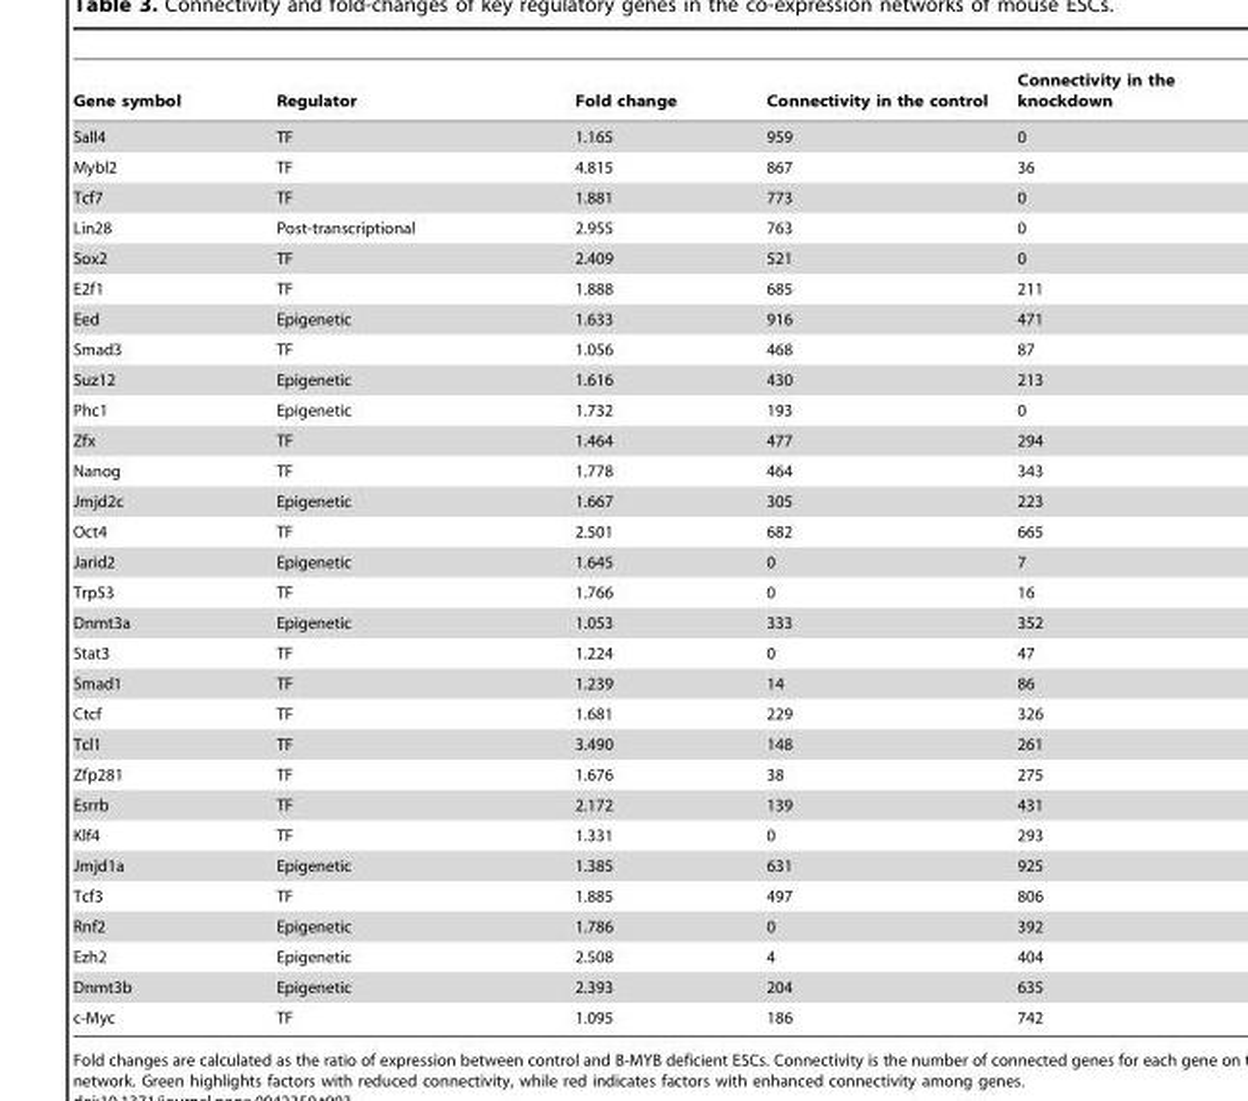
<table><thead><tr><td>Gene symbol</td><td>Regulator</td><td>Fold change</td><td>Connectivity in the control</td><td>Connectivity in the knockdown</td></tr></thead><tbody><tr><td>Sall4</td><td>TF</td><td>1.165</td><td>959</td><td>0</td></tr><tr><td>Mybl2</td><td>TF</td><td>4.815</td><td>867</td><td>36</td></tr><tr><td>Tcf7</td><td>TF</td><td>1.881</td><td>773</td><td>0</td></tr><tr><td>Lin28</td><td>Post-transcriptional</td><td>2.955</td><td>763</td><td>0</td></tr><tr><td>Sox2</td><td>TF</td><td>2.409</td><td>521</td><td>0</td></tr><tr><td>E2f1</td><td>TF</td><td>1.888</td><td>685</td><td>211</td></tr><tr><td>Eed</td><td>Epigenetic</td><td>1.633</td><td>916</td><td>471</td></tr><tr><td>Smad3</td><td>TF</td><td>1.056</td><td>468</td><td>87</td></tr><tr><td>Suz12</td><td>Epigenetic</td><td>1.616</td><td>430</td><td>213</td></tr><tr><td>Phc1</td><td>Epigenetic</td><td>1.732</td><td>193</td><td>0</td></tr><tr><td>Zfx</td><td>TF</td><td>1.464</td><td>477</td><td>294</td></tr><tr><td>Nanog</td><td>TF</td><td>1.778</td><td>464</td><td>343</td></tr><tr><td>Jmjd2c</td><td>Epigenetic</td><td>1.667</td><td>305</td><td>223</td></tr><tr><td>Oct4</td><td>TF</td><td>2.501</td><td>682</td><td>665</td></tr><tr><td>Jarid2</td><td>Epigenetic</td><td>1.645</td><td>0</td><td>7</td></tr><tr><td>Trp53</td><td>TF</td><td>1.766</td><td>0</td><td>16</td></tr><tr><td>Dnmt3a</td><td>Epigenetic</td><td>1.053</td><td>333</td><td>352</td></tr><tr><td>Stat3</td><td>TF</td><td>1.224</td><td>0</td><td>47</td></tr><tr><td>Smad1</td><td>TF</td><td>1.239</td><td>14</td><td>86</td></tr><tr><td>Ctcf</td><td>TF</td><td>1.681</td><td>229</td><td>326</td></tr><tr><td>Tcl1</td><td>TF</td><td>3.490</td><td>148</td><td>261</td></tr><tr><td>Zfp281</td><td>TF</td><td>1.676</td><td>38</td><td>275</td></tr><tr><td>Esrrb</td><td>TF</td><td>2.172</td><td>139</td><td>431</td></tr><tr><td>Klf4</td><td>TF</td><td>1.331</td><td>0</td><td>293</td></tr><tr><td>Jmjd1a</td><td>Epigenetic</td><td>1.385</td><td>631</td><td>925</td></tr><tr><td>Tcf3</td><td>TF</td><td>1.885</td><td>497</td><td>806</td></tr><tr><td>Rnf2</td><td>Epigenetic</td><td>1.786</td><td>0</td><td>392</td></tr><tr><td>Ezh2</td><td>Epigenetic</td><td>2.508</td><td>4</td><td>404</td></tr><tr><td>Dnmt3b</td><td>Epigenetic</td><td>2.393</td><td>204</td><td>635</td></tr><tr><td>c-Myc</td><td>TF</td><td>1.095</td><td>186</td><td>742</td></tr></tbody></table>